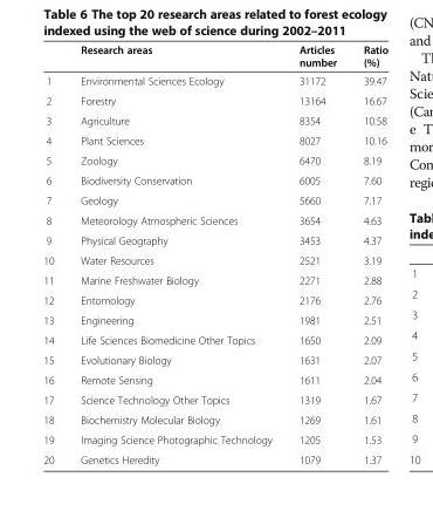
<table><thead><tr><td></td><td>Research areas</td><td>Articles number</td><td>Ratio (%)</td></tr></thead><tbody><tr><td>1</td><td>Environmental Sciences Ecology</td><td>31172</td><td>39.47</td></tr><tr><td>2</td><td>Forestry</td><td>13164</td><td>16.67</td></tr><tr><td>3</td><td>Agriculture</td><td>8354</td><td>10.58</td></tr><tr><td>4</td><td>Plant Sciences</td><td>8027</td><td>10.16</td></tr><tr><td>5</td><td>Zoology</td><td>6470</td><td>8.19</td></tr><tr><td>6</td><td>Biodiversity Conservation</td><td>6005</td><td>7.60</td></tr><tr><td>7</td><td>Geology</td><td>5660</td><td>7.17</td></tr><tr><td>8</td><td>Meteorology Atmospheric Sciences</td><td>3654</td><td>4.63</td></tr><tr><td>9</td><td>Physical Geography</td><td>3453</td><td>4.37</td></tr><tr><td>10</td><td>Water Resources</td><td>2521</td><td>3.19</td></tr><tr><td>11</td><td>Marine Freshwater Biology</td><td>2271</td><td>2.88</td></tr><tr><td>12</td><td>Entomology</td><td>2176</td><td>2.76</td></tr><tr><td>13</td><td>Engineering</td><td>1981</td><td>2.51</td></tr><tr><td>14</td><td>Life Sciences Biomedicine Other Topics</td><td>1650</td><td>2.09</td></tr><tr><td>15</td><td>Evolutionary Biology</td><td>1631</td><td>2.07</td></tr><tr><td>16</td><td>Remote Sensing</td><td>1611</td><td>2.04</td></tr><tr><td>17</td><td>Science Technology Other Topics</td><td>1319</td><td>1.67</td></tr><tr><td>18</td><td>Biochemistry Molecular Biology</td><td>1269</td><td>1.61</td></tr><tr><td>19</td><td>Imaging Science Photographic Technology</td><td>1205</td><td>1.53</td></tr><tr><td>20</td><td>Genetics Heredity</td><td>1079</td><td>1.37</td></tr></tbody></table>